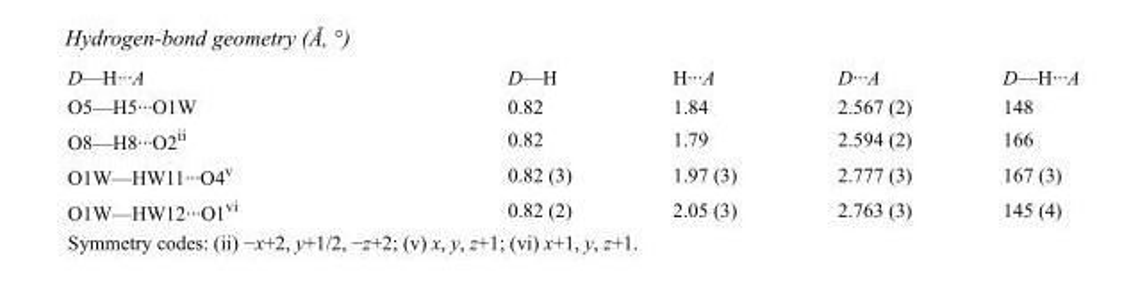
<table><tbody><tr><td>D—H···A</td><td>D—H</td><td>H···A</td><td>D···A</td><td>D—H···A</td></tr><tr><td>O5—H5···O1W</td><td>0.82</td><td>1.84</td><td>2.567 (2)</td><td>148</td></tr><tr><td>O8—H8···O2<sup>ii</sup></td><td>0.82</td><td>1.79</td><td>2.594 (2)</td><td>166</td></tr><tr><td>O1W—HW11···O4<sup>v</sup></td><td>0.82 (3)</td><td>1.97 (3)</td><td>2.777 (3)</td><td>167 (3)</td></tr><tr><td>O1W—HW12···O1<sup>vi</sup></td><td>0.82 (2)</td><td>2.05 (3)</td><td>2.763 (3)</td><td>145 (4)</td></tr></tbody></table>